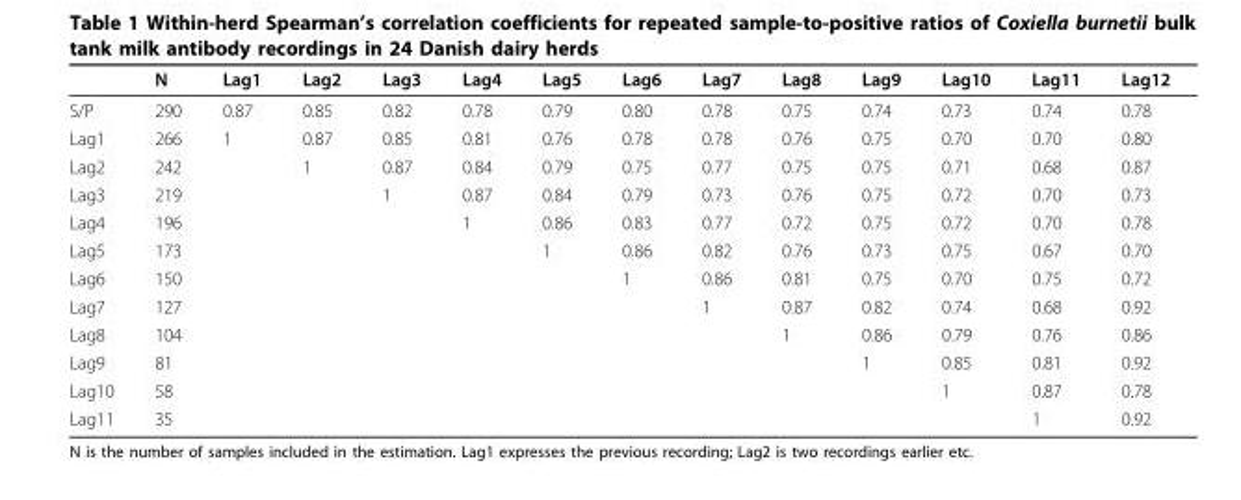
<table><thead><tr><td></td><td>N</td><td>Lag1</td><td>Lag2</td><td>Lag3</td><td>Lag4</td><td>Lag5</td><td>Lag6</td><td>Lag7</td><td>Lag8</td><td>Lag9</td><td>Lag10</td><td>Lag11</td><td>Lag12</td></tr></thead><tbody><tr><td>S/P</td><td>290</td><td>0.87</td><td>0.85</td><td>0.82</td><td>0.78</td><td>0.79</td><td>0.80</td><td>0.78</td><td>0.75</td><td>0.74</td><td>0.73</td><td>0.74</td><td>0.78</td></tr><tr><td>Lag1</td><td>266</td><td>1</td><td>0.87</td><td>0.85</td><td>0.81</td><td>0.76</td><td>0.78</td><td>0.78</td><td>0.76</td><td>0.75</td><td>0.70</td><td>0.70</td><td>0.80</td></tr><tr><td>Lag2</td><td>242</td><td></td><td>1</td><td>0.87</td><td>0.84</td><td>0.79</td><td>0.75</td><td>0.77</td><td>0.75</td><td>0.75</td><td>0.71</td><td>0.68</td><td>0.87</td></tr><tr><td>Lag3</td><td>219</td><td></td><td></td><td>1</td><td>0.87</td><td>0.84</td><td>0.79</td><td>0.73</td><td>0.76</td><td>0.75</td><td>0.72</td><td>0.70</td><td>0.73</td></tr><tr><td>Lag4</td><td>196</td><td></td><td></td><td></td><td>1</td><td>0.86</td><td>0.83</td><td>0.77</td><td>0.72</td><td>0.75</td><td>0.72</td><td>0.70</td><td>0.78</td></tr><tr><td>Lag5</td><td>173</td><td></td><td></td><td></td><td></td><td>1</td><td>0.86</td><td>0.82</td><td>0.76</td><td>0.73</td><td>0.75</td><td>0.67</td><td>0.70</td></tr><tr><td>Lag6</td><td>150</td><td></td><td></td><td></td><td></td><td></td><td>1</td><td>0.86</td><td>0.81</td><td>0.75</td><td>0.70</td><td>0.75</td><td>0.72</td></tr><tr><td>Lag7</td><td>127</td><td></td><td></td><td></td><td></td><td></td><td></td><td>1</td><td>0.87</td><td>0.82</td><td>0.74</td><td>0.68</td><td>0.92</td></tr><tr><td>Lag8</td><td>104</td><td></td><td></td><td></td><td></td><td></td><td></td><td></td><td>1</td><td>0.86</td><td>0.79</td><td>0.76</td><td>0.86</td></tr><tr><td>Lag9</td><td>81</td><td></td><td></td><td></td><td></td><td></td><td></td><td></td><td></td><td>1</td><td>0.85</td><td>0.81</td><td>0.92</td></tr><tr><td>Lag10</td><td>58</td><td></td><td></td><td></td><td></td><td></td><td></td><td></td><td></td><td></td><td>1</td><td>0.87</td><td>0.78</td></tr><tr><td>Lag11</td><td>35</td><td></td><td></td><td></td><td></td><td></td><td></td><td></td><td></td><td></td><td></td><td>1</td><td>0.92</td></tr></tbody></table>